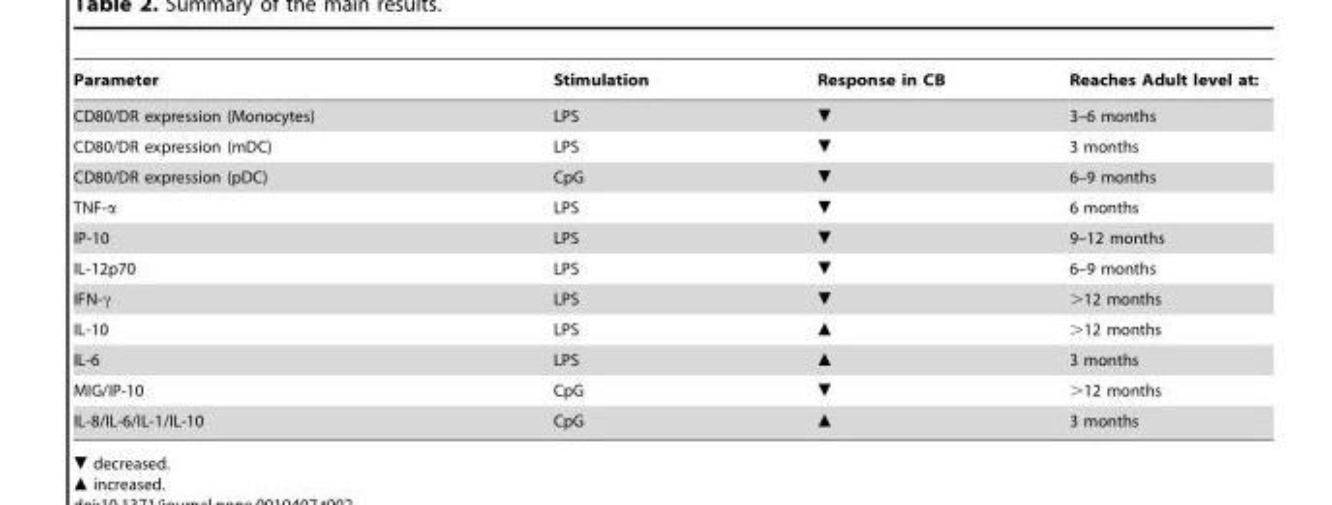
<table><thead><tr><td>Parameter</td><td>Stimulation</td><td>Response in CB</td><td>Reaches Adult level at:</td></tr></thead><tbody><tr><td>CD80/DR expression (Monocytes)</td><td>LPS</td><td>▾</td><td>3–6 months</td></tr><tr><td>CD80/DR expression (mDC)</td><td>LPS</td><td>▾</td><td>3 months</td></tr><tr><td>CD80/DR expression (pDC)</td><td>CpG</td><td>▾</td><td>6–9 months</td></tr><tr><td>TNF-α</td><td>LPS</td><td>▾</td><td>6 months</td></tr><tr><td>IP-10</td><td>LPS</td><td>▾</td><td>9–12 months</td></tr><tr><td>IL-12p70</td><td>LPS</td><td>▾</td><td>6–9 months</td></tr><tr><td>IFN-γ</td><td>LPS</td><td>▾</td><td>&gt;12 months</td></tr><tr><td>IL-10</td><td>LPS</td><td>▴</td><td>&gt;12 months</td></tr><tr><td>IL-6</td><td>LPS</td><td>▴</td><td>3 months</td></tr><tr><td>MIG/IP-10</td><td>CpG</td><td>▾</td><td>&gt;12 months</td></tr><tr><td>IL-8/IL-6/IL-1/IL-10</td><td>CpG</td><td>▴</td><td>3 months</td></tr></tbody></table>